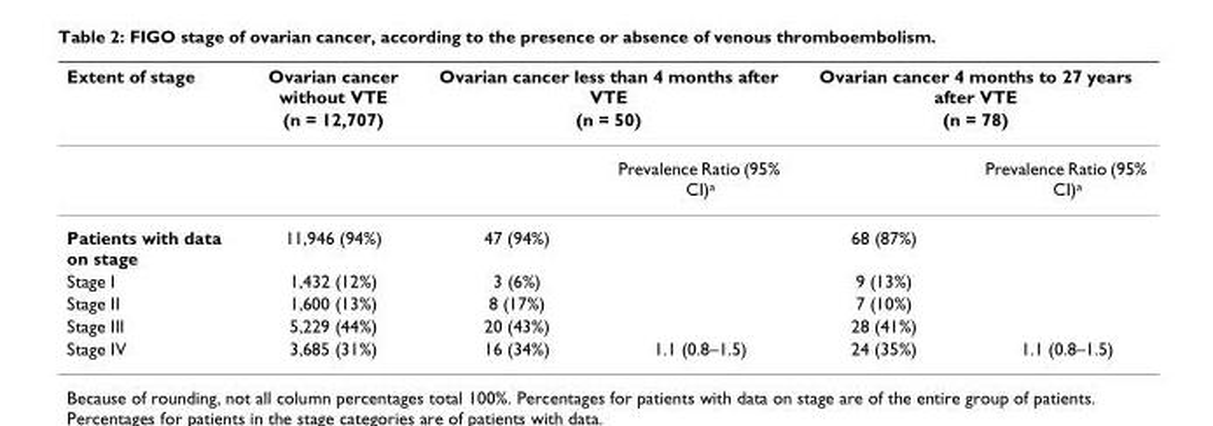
<table><thead><tr><td rowspan="3">Extent of stage</td><td rowspan="3">Ovarian cancer without VTE (n = 12,707)</td><td rowspan="2" colspan="2">Ovarian cancer less than 4 months after VTE (n = 50)</td><td rowspan="2" colspan="2">Ovarian cancer 4 months to 27 years after VTE (n = 78)</td></tr><tr></tr><tr><td></td><td>Prevalence Ratio (95% CI)a</td><td></td><td>Prevalence Ratio (95% CI)a</td></tr></thead><tbody><tr><td>Patients with data on stage</td><td>11,946 (94%)</td><td>47 (94%)</td><td></td><td>68 (87%)</td><td></td></tr><tr><td>Stage I</td><td>1,432 (12%)</td><td>3 (6%)</td><td></td><td>9 (13%)</td><td></td></tr><tr><td>Stage II</td><td>1,600 (13%)</td><td>8 (17%)</td><td></td><td>7 (10%)</td><td></td></tr><tr><td>Stage III</td><td>5,229 (44%)</td><td>20 (43%)</td><td></td><td>28 (41%)</td><td></td></tr><tr><td>Stage IV</td><td>3,685 (31%)</td><td>16 (34%)</td><td>1.1 (0.8–1.5)</td><td>24 (35%)</td><td>1.1 (0.8–1.5)</td></tr></tbody></table>